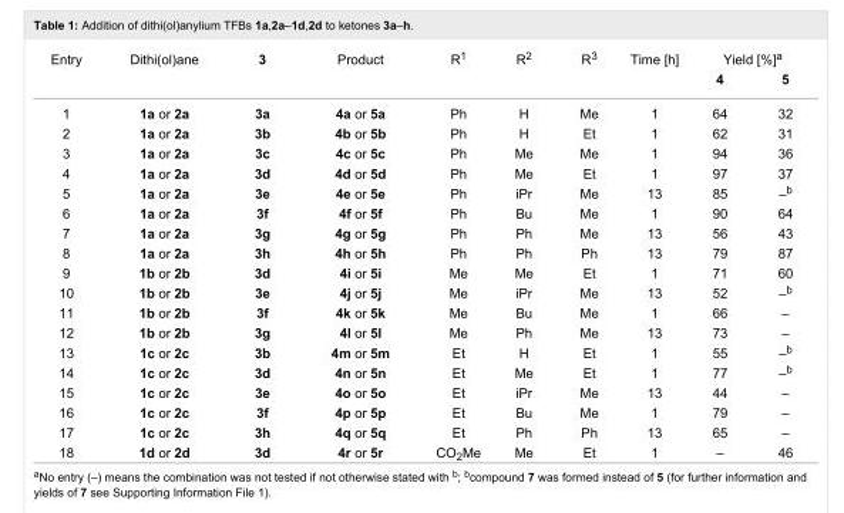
<table><tbody><tr><td rowspan="2">Entry</td><td rowspan="2">Dithi(ol)ane</td><td rowspan="2">3</td><td rowspan="2">Product</td><td rowspan="2">R<sup>1</sup></td><td rowspan="2">R<sup>2</sup></td><td rowspan="2">R<sup>3</sup></td><td rowspan="2">Time [h]</td><td colspan="2">Yield [%]<sup>a</sup></td></tr><tr><td>4</td><td>5</td></tr><tr><td>1</td><td>1a or 2a</td><td>3a</td><td>4a or 5a</td><td>Ph</td><td>H</td><td>Me</td><td>1</td><td>64</td><td>32</td></tr><tr><td>2</td><td>1a or 2a</td><td>3b</td><td>4b or 5b</td><td>Ph</td><td>H</td><td>Et</td><td>1</td><td>62</td><td>31</td></tr><tr><td>3</td><td>1a or 2a</td><td>3c</td><td>4c or 5c</td><td>Ph</td><td>Me</td><td>Me</td><td>1</td><td>94</td><td>36</td></tr><tr><td>4</td><td>1a or 2a</td><td>3d</td><td>4d or 5d</td><td>Ph</td><td>Me</td><td>Et</td><td>1</td><td>97</td><td>37</td></tr><tr><td>5</td><td>1a or 2a</td><td>3e</td><td>4e or 5e</td><td>Ph</td><td>iPr</td><td>Me</td><td>13</td><td>85</td><td>–<sup>b</sup></td></tr><tr><td>6</td><td>1a or 2a</td><td>3f</td><td>4f or 5f</td><td>Ph</td><td>Bu</td><td>Me</td><td>1</td><td>90</td><td>64</td></tr><tr><td>7</td><td>1a or 2a</td><td>3g</td><td>4g or 5g</td><td>Ph</td><td>Ph</td><td>Me</td><td>13</td><td>56</td><td>43</td></tr><tr><td>8</td><td>1a or 2a</td><td>3h</td><td>4h or 5h</td><td>Ph</td><td>Ph</td><td>Ph</td><td>13</td><td>79</td><td>87</td></tr><tr><td>9</td><td>1b or 2b</td><td>3d</td><td>4i or 5i</td><td>Me</td><td>Me</td><td>Et</td><td>1</td><td>71</td><td>60</td></tr><tr><td>10</td><td>1b or 2b</td><td>3e</td><td>4j or 5j</td><td>Me</td><td>iPr</td><td>Me</td><td>13</td><td>52</td><td>–<sup>b</sup></td></tr><tr><td>11</td><td>1b or 2b</td><td>3f</td><td>4k or 5k</td><td>Me</td><td>Bu</td><td>Me</td><td>1</td><td>66</td><td>–</td></tr><tr><td>12</td><td>1b or 2b</td><td>3g</td><td>4l or 5l</td><td>Me</td><td>Ph</td><td>Me</td><td>13</td><td>73</td><td>–</td></tr><tr><td>13</td><td>1c or 2c</td><td>3b</td><td>4m or 5m</td><td>Et</td><td>H</td><td>Et</td><td>1</td><td>55</td><td>–<sup>b</sup></td></tr><tr><td>14</td><td>1c or 2c</td><td>3d</td><td>4n or 5n</td><td>Et</td><td>Me</td><td>Et</td><td>1</td><td>77</td><td>–<sup>b</sup></td></tr><tr><td>15</td><td>1c or 2c</td><td>3e</td><td>4o or 5o</td><td>Et</td><td>iPr</td><td>Me</td><td>13</td><td>44</td><td>–</td></tr><tr><td>16</td><td>1c or 2c</td><td>3f</td><td>4p or 5p</td><td>Et</td><td>Bu</td><td>Me</td><td>1</td><td>79</td><td>–</td></tr><tr><td>17</td><td>1c or 2c</td><td>3h</td><td>4q or 5q</td><td>Et</td><td>Ph</td><td>Ph</td><td>13</td><td>65</td><td>–</td></tr><tr><td>18</td><td>1d or 2d</td><td>3d</td><td>4r or 5r</td><td>CO<sub>2</sub>Me</td><td>Me</td><td>Et</td><td>1</td><td>–</td><td>46</td></tr></tbody></table>